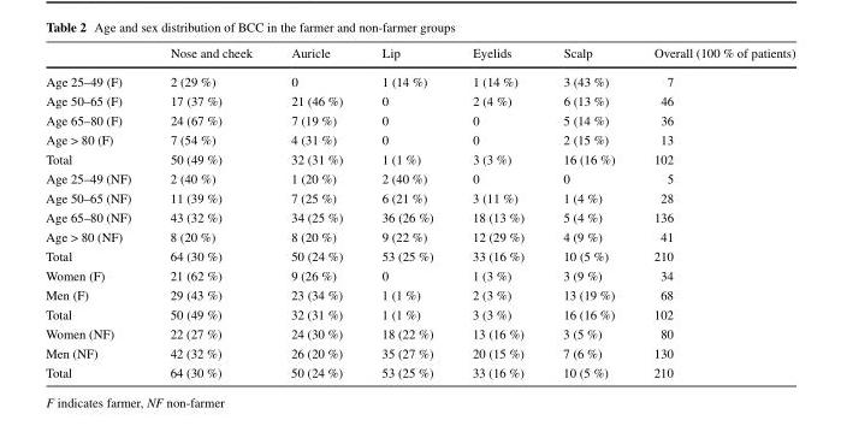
<table><thead><tr><td></td><td>Nose and cheek</td><td>Auricle</td><td>Lip</td><td>Eyelids</td><td>Scalp</td><td>Overall (100 % of patients)</td></tr></thead><tbody><tr><td>Age 25–49 (F)</td><td>2 (29 %)</td><td>0</td><td>1 (14 %)</td><td>1 (14 %)</td><td>3 (43 %)</td><td>7</td></tr><tr><td>Age 50–65 (F)</td><td>17 (37 %)</td><td>21 (46 %)</td><td>0</td><td>2 (4 %)</td><td>6 (13 %)</td><td>46</td></tr><tr><td>Age 65–80 (F)</td><td>24 (67 %)</td><td>7 (19 %)</td><td>0</td><td>0</td><td>5 (14 %)</td><td>36</td></tr><tr><td>Age &gt; 80 (F)</td><td>7 (54 %)</td><td>4 (31 %)</td><td>0</td><td>0</td><td>2 (15 %)</td><td>13</td></tr><tr><td>Total</td><td>50 (49 %)</td><td>32 (31 %)</td><td>1 (1 %)</td><td>3 (3 %)</td><td>16 (16 %)</td><td>102</td></tr><tr><td>Age 25–49 (NF)</td><td>2 (40 %)</td><td>1 (20 %)</td><td>2 (40 %)</td><td>0</td><td>0</td><td>5</td></tr><tr><td>Age 50–65 (NF)</td><td>11 (39 %)</td><td>7 (25 %)</td><td>6 (21 %)</td><td>3 (11 %)</td><td>1 (4 %)</td><td>28</td></tr><tr><td>Age 65–80 (NF)</td><td>43 (32 %)</td><td>34 (25 %)</td><td>36 (26 %)</td><td>18 (13 %)</td><td>5 (4 %)</td><td>136</td></tr><tr><td>Age &gt; 80 (NF)</td><td>8 (20 %)</td><td>8 (20 %)</td><td>9 (22 %)</td><td>12 (29 %)</td><td>4 (9 %)</td><td>41</td></tr><tr><td>Total</td><td>64 (30 %)</td><td>50 (24 %)</td><td>53 (25 %)</td><td>33 (16 %)</td><td>10 (5 %)</td><td>210</td></tr><tr><td>Women (F)</td><td>21 (62 %)</td><td>9 (26 %)</td><td>0</td><td>1 (3 %)</td><td>3 (9 %)</td><td>34</td></tr><tr><td>Men (F)</td><td>29 (43 %)</td><td>23 (34 %)</td><td>1 (1 %)</td><td>2 (3 %)</td><td>13 (19 %)</td><td>68</td></tr><tr><td>Total</td><td>50 (49 %)</td><td>32 (31 %)</td><td>1 (1 %)</td><td>3 (3 %)</td><td>16 (16 %)</td><td>102</td></tr><tr><td>Women (NF)</td><td>22 (27 %)</td><td>24 (30 %)</td><td>18 (22 %)</td><td>13 (16 %)</td><td>3 (5 %)</td><td>80</td></tr><tr><td>Men (NF)</td><td>42 (32 %)</td><td>26 (20 %)</td><td>35 (27 %)</td><td>20 (15 %)</td><td>7 (6 %)</td><td>130</td></tr><tr><td>Total</td><td>64 (30 %)</td><td>50 (24 %)</td><td>53 (25 %)</td><td>33 (16 %)</td><td>10 (5 %)</td><td>210</td></tr></tbody></table>